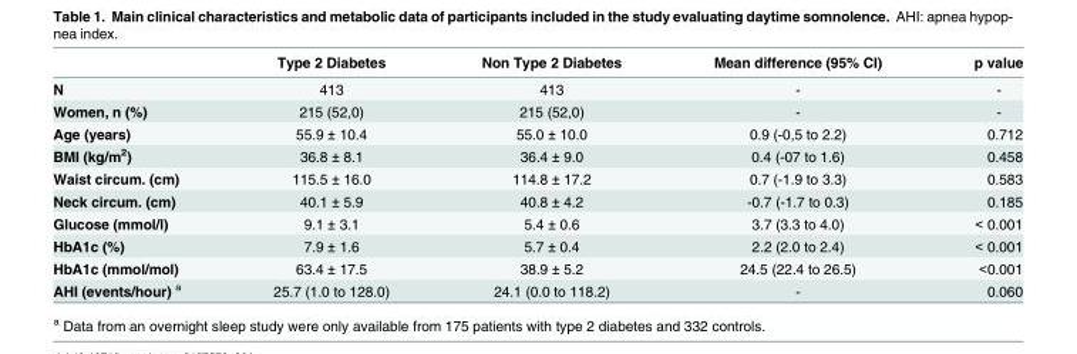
<table><thead><tr><td></td><td>Type 2 Diabetes</td><td>Non Type 2 Diabetes</td><td>Mean difference (95% CI)</td><td>p value</td></tr></thead><tbody><tr><td>N</td><td>413</td><td>413</td><td>-</td><td>-</td></tr><tr><td>Women, n (%)</td><td>215 (52,0)</td><td>215 (52,0)</td><td>-</td><td>-</td></tr><tr><td>Age (years)</td><td>55.9 ± 10.4</td><td>55.0 ± 10.0</td><td>0.9 (-0,5 to 2.2)</td><td>0.712</td></tr><tr><td>BMI (kg/m<sup>2</sup>)</td><td>36.8 ± 8.1</td><td>36.4 ± 9.0</td><td>0.4 (-07 to 1.6)</td><td>0.458</td></tr><tr><td>Waist circum. (cm)</td><td>115.5 ± 16.0</td><td>114.8 ± 17.2</td><td>0.7 (-1.9 to 3.3)</td><td>0.583</td></tr><tr><td>Neck circum. (cm)</td><td>40.1 ± 5.9</td><td>40.8 ± 4.2</td><td>-0.7 (-1.7 to 0.3)</td><td>0.185</td></tr><tr><td>Glucose (mmol/l)</td><td>9.1 ± 3.1</td><td>5.4 ± 0.6</td><td>3.7 (3.3 to 4.0)</td><td>&lt; 0.001</td></tr><tr><td>HbA1c (%)</td><td>7.9 ± 1.6</td><td>5.7 ± 0.4</td><td>2.2 (2.0 to 2.4)</td><td>&lt; 0.001</td></tr><tr><td>HbA1c (mmol/mol)</td><td>63.4 ± 17.5</td><td>38.9 ± 5.2</td><td>24.5 (22.4 to 26.5)</td><td>&lt;0.001</td></tr><tr><td>AHI (events/hour) <sup>a</sup></td><td>25.7 (1.0 to 128.0)</td><td>24.1 (0.0 to 118.2)</td><td>-</td><td>0.060</td></tr></tbody></table>